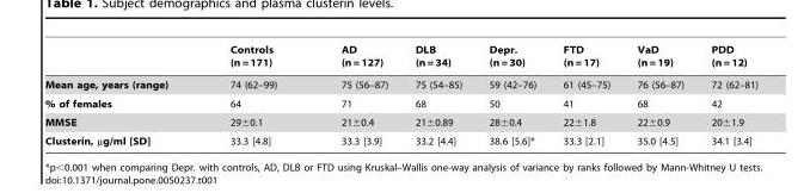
<table><thead><tr><td></td><td>Controls (n = 171)</td><td>AD (n = 127)</td><td>DLB (n = 34)</td><td>Depr. (n = 30)</td><td>FTD (n = 17)</td><td>VaD (n = 19)</td><td>PDD (n = 12)</td></tr></thead><tbody><tr><td>Mean age, years (range)</td><td>74 (62–99)</td><td>75 (56–87)</td><td>75 (54–85)</td><td>59 (42–76)</td><td>61 (45–75)</td><td>76 (56–87)</td><td>72 (62–81)</td></tr><tr><td>% of females</td><td>64</td><td>71</td><td>68</td><td>50</td><td>41</td><td>68</td><td>42</td></tr><tr><td>MMSE</td><td>29±0.1</td><td>21±0.4</td><td>21±0.89</td><td>28±0.4</td><td>22±1.8</td><td>22±0.9</td><td>20±1.9</td></tr><tr><td>Clusterin, µg/ml [SD]</td><td>33.3 [4.8]</td><td>33.3 [3.9]</td><td>33.2 [4.4]</td><td>38.6 [5.6]*</td><td>33.3 [2.1]</td><td>35.0 [4.5]</td><td>34.1 [3.4]</td></tr></tbody></table>